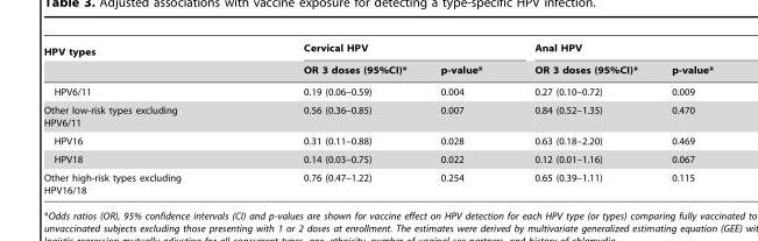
<table><thead><tr><td rowspan="2">HPV types</td><td colspan="2">Cervical HPV</td><td colspan="2">Anal HPV</td></tr><tr><td>OR 3 doses (95%CI)*</td><td>p-value*</td><td>OR 3 doses (95%CI)*</td><td>p-value*</td></tr></thead><tbody><tr><td>HPV6/11</td><td>0.19 (0.06–0.59)</td><td>0.004</td><td>0.27 (0.10–0.72)</td><td>0.009</td></tr><tr><td>Other low-risk types excluding HPV6/11</td><td>0.56 (0.36–0.85)</td><td>0.007</td><td>0.84 (0.52–1.35)</td><td>0.470</td></tr><tr><td>HPV16</td><td>0.31 (0.11–0.88)</td><td>0.028</td><td>0.63 (0.18–2.20)</td><td>0.469</td></tr><tr><td>HPV18</td><td>0.14 (0.03–0.75)</td><td>0.022</td><td>0.12 (0.01–1.16)</td><td>0.067</td></tr><tr><td>Other high-risk types excluding HPV16/18</td><td>0.76 (0.47–1.22)</td><td>0.254</td><td>0.65 (0.39–1.11)</td><td>0.115</td></tr></tbody></table>